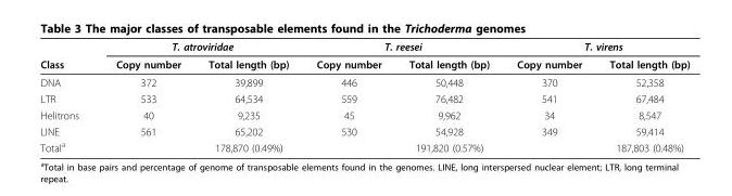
<table><thead><tr><td rowspan="2">Class</td><td colspan="2">T. atroviridae</td><td colspan="2">T. reesei</td><td colspan="2">T. virens</td></tr><tr><td>Copy number</td><td>Total length (bp)</td><td>Copy number</td><td>Total length (bp)</td><td>Copy number</td><td>Total length (bp)</td></tr></thead><tbody><tr><td>DNA</td><td>372</td><td>39,899</td><td>446</td><td>50,448</td><td>370</td><td>52,358</td></tr><tr><td>LTR</td><td>533</td><td>64,534</td><td>559</td><td>76,482</td><td>541</td><td>67,484</td></tr><tr><td>Helitrons</td><td>40</td><td>9,235</td><td>45</td><td>9,962</td><td>34</td><td>8,547</td></tr><tr><td>LINE</td><td>561</td><td>65,202</td><td>530</td><td>54,928</td><td>349</td><td>59,414</td></tr><tr><td>Total<sup>a</sup></td><td></td><td>178,870 (0.49%)</td><td></td><td>191,820 (0.57%)</td><td></td><td>187,803 (0.48%)</td></tr></tbody></table>